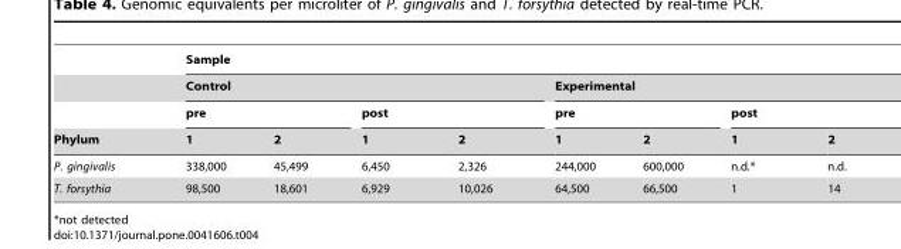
<table><thead><tr><td rowspan="4">Phylum</td><td colspan="8">Sample</td></tr><tr><td colspan="4">Control</td><td colspan="4">Experimental</td></tr><tr><td colspan="2">pre</td><td colspan="2">post</td><td colspan="2">pre</td><td colspan="2">post</td></tr><tr><td>1</td><td>2</td><td>1</td><td>2</td><td>1</td><td>2</td><td>1</td><td>2</td></tr></thead><tbody><tr><td>P. gingivalis</td><td>338,000</td><td>45,499</td><td>6,450</td><td>2,326</td><td>244,000</td><td>600,000</td><td>n.d.*</td><td>n.d.</td></tr><tr><td>T. forsythia</td><td>98,500</td><td>18,601</td><td>6,929</td><td>10,026</td><td>64,500</td><td>66,500</td><td>1</td><td>14</td></tr></tbody></table>